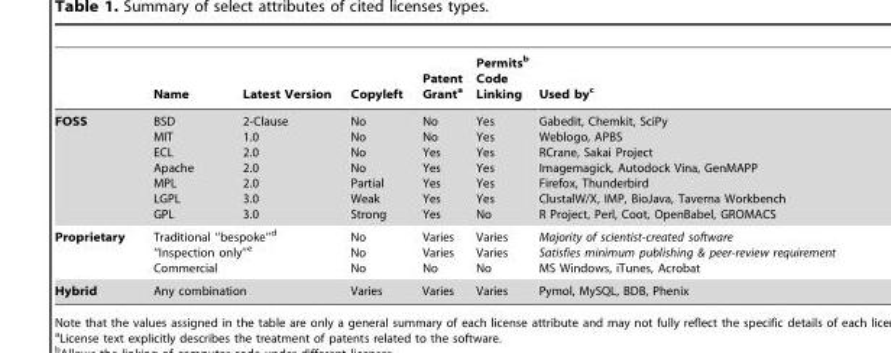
<table><thead><tr><td></td><td>Name</td><td>Latest Version</td><td>Copyleft</td><td>Patent Grant<sup>a</sup></td><td>Permits<sup>b</sup> Code Linking</td><td>Used by<sup>c</sup></td></tr></thead><tbody><tr><td>FOSS</td><td>BSD MIT ECL Apache MPL LGPL GPL</td><td>2-Clause 1.0 2.0 2.0 2.0 3.0 3.0</td><td>No No No No Partial Weak Strong</td><td>No No Yes Yes Yes Yes Yes</td><td>Yes Yes Yes Yes Yes Yes No</td><td>Gabedit, Chemkit, SciPy Weblogo, APBS RCrane, Sakai Project Imagemagick, Autodock Vina, GenMAPP Firefox, Thunderbird ClustalW/X, IMP, BioJava, Taverna Workbench R Project, Perl, Coot, OpenBabel, GROMACS</td></tr><tr><td>Proprietary</td><td colspan="2">Traditional ‘‘bespoke’’d ‘‘Inspection only’’e Commercial</td><td>No No No</td><td>Varies Varies No</td><td>Varies Varies No</td><td>Majority of scientist-created software Satisfies minimum publishing &amp; peer-review requirement MS Windows, iTunes, Acrobat</td></tr><tr><td>Hybrid</td><td colspan="2">Any combination</td><td>Varies</td><td>Varies</td><td>Varies</td><td>Pymol, MySQL, BDB, Phenix</td></tr></tbody></table>